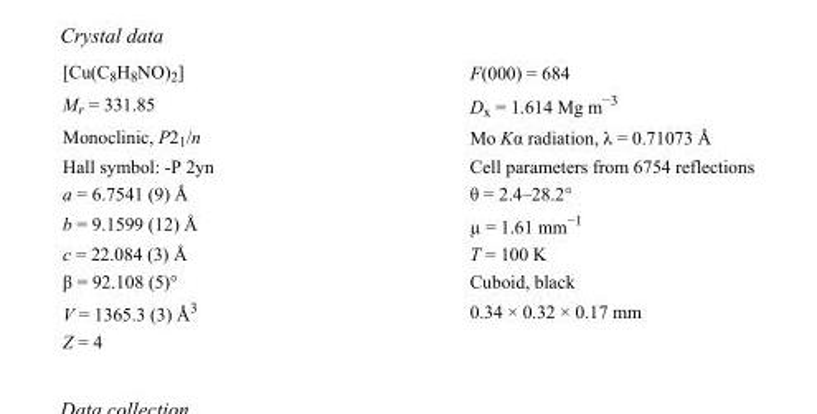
<table><tbody><tr><td>[Cu(C<sub>8</sub>H<sub>8</sub>NO)<sub>2</sub>]</td><td>F(000) = 684</td></tr><tr><td>M<sub>r</sub> = 331.85</td><td>D<sub>x</sub> = 1.614 Mg m<sup>−3</sup></td></tr><tr><td>Monoclinic, P2<sub>1</sub>/n</td><td>Mo Kα radiation, λ = 0.71073 Å</td></tr><tr><td>Hall symbol: -P 2yn</td><td>Cell parameters from 6754 reflections</td></tr><tr><td>a = 6.7541 (9) Å</td><td>θ = 2.4–28.2°</td></tr><tr><td>b = 9.1599 (12) Å</td><td>µ = 1.61 mm<sup>−1</sup></td></tr><tr><td>c = 22.084 (3) Å</td><td>T = 100 K</td></tr><tr><td>β = 92.108 (5)°</td><td>Cuboid, black</td></tr><tr><td>V = 1365.3 (3) Å<sup>3</sup></td><td>0.34 × 0.32 × 0.17 mm</td></tr><tr><td>Z = 4</td><td></td></tr></tbody></table>